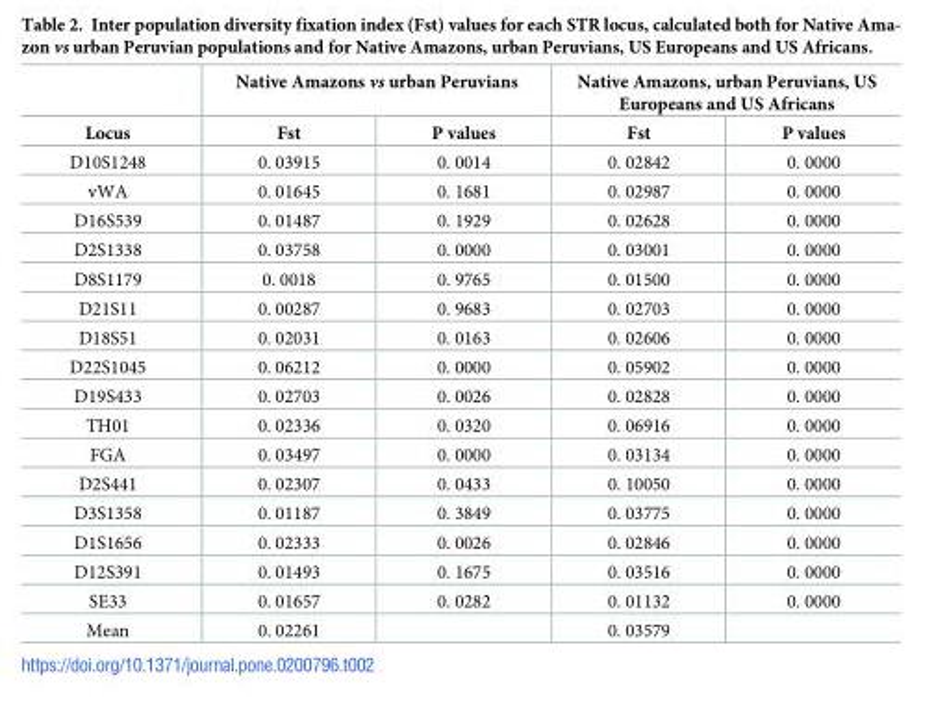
<table><thead><tr><td rowspan="2">Locus</td><td colspan="2">Native Amazons vs urban Peruvians</td><td colspan="2">Native Amazons, urban Peruvians, US Europeans and US Africans</td></tr><tr><td>Fst</td><td>P values</td><td>Fst</td><td>P values</td></tr></thead><tbody><tr><td>D10S1248</td><td>0. 03915</td><td>0. 0014</td><td>0. 02842</td><td>0. 0000</td></tr><tr><td>vWA</td><td>0. 01645</td><td>0. 1681</td><td>0. 02987</td><td>0. 0000</td></tr><tr><td>D16S539</td><td>0. 01487</td><td>0. 1929</td><td>0. 02628</td><td>0. 0000</td></tr><tr><td>D2S1338</td><td>0. 03758</td><td>0. 0000</td><td>0. 03001</td><td>0. 0000</td></tr><tr><td>D8S1179</td><td>0. 0018</td><td>0. 9765</td><td>0. 01500</td><td>0. 0000</td></tr><tr><td>D21S11</td><td>0. 00287</td><td>0. 9683</td><td>0. 02703</td><td>0. 0000</td></tr><tr><td>D18S51</td><td>0. 02031</td><td>0. 0163</td><td>0. 02606</td><td>0. 0000</td></tr><tr><td>D22S1045</td><td>0. 06212</td><td>0. 0000</td><td>0. 05902</td><td>0. 0000</td></tr><tr><td>D19S433</td><td>0. 02703</td><td>0. 0026</td><td>0. 02828</td><td>0. 0000</td></tr><tr><td>TH01</td><td>0. 02336</td><td>0. 0320</td><td>0. 06916</td><td>0. 0000</td></tr><tr><td>FGA</td><td>0. 03497</td><td>0. 0000</td><td>0. 03134</td><td>0. 0000</td></tr><tr><td>D2S441</td><td>0. 02307</td><td>0. 0433</td><td>0. 10050</td><td>0. 0000</td></tr><tr><td>D3S1358</td><td>0. 01187</td><td>0. 3849</td><td>0. 03775</td><td>0. 0000</td></tr><tr><td>D1S1656</td><td>0. 02333</td><td>0. 0026</td><td>0. 02846</td><td>0. 0000</td></tr><tr><td>D12S391</td><td>0. 01493</td><td>0. 1675</td><td>0. 03516</td><td>0. 0000</td></tr><tr><td>SE33</td><td>0. 01657</td><td>0. 0282</td><td>0. 01132</td><td>0. 0000</td></tr><tr><td>Mean</td><td>0. 02261</td><td></td><td>0. 03579</td><td></td></tr></tbody></table>